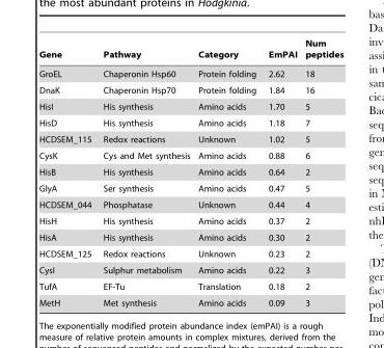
<table><thead><tr><td>Gene</td><td>Pathway</td><td>Category</td><td>EmPAI</td><td>Num peptides</td></tr></thead><tbody><tr><td>GroEL</td><td>Chaperonin Hsp60</td><td>Protein folding</td><td>2.62</td><td>18</td></tr><tr><td>DnaK</td><td>Chaperonin Hsp70</td><td>Protein folding</td><td>1.84</td><td>16</td></tr><tr><td>HisI</td><td>His synthesis</td><td>Amino acids</td><td>1.70</td><td>5</td></tr><tr><td>HisD</td><td>His synthesis</td><td>Amino acids</td><td>1.18</td><td>7</td></tr><tr><td>HCDSEM_115</td><td>Redox reactions</td><td>Unknown</td><td>1.02</td><td>5</td></tr><tr><td>CysK</td><td>Cys and Met synthesis</td><td>Amino acids</td><td>0.88</td><td>6</td></tr><tr><td>HisB</td><td>His synthesis</td><td>Amino acids</td><td>0.64</td><td>2</td></tr><tr><td>GlyA</td><td>Ser synthesis</td><td>Amino acids</td><td>0.47</td><td>5</td></tr><tr><td>HCDSEM_044</td><td>Phosphatase</td><td>Unknown</td><td>0.44</td><td>4</td></tr><tr><td>HisH</td><td>His synthesis</td><td>Amino acids</td><td>0.37</td><td>2</td></tr><tr><td>HisA</td><td>His synthesis</td><td>Amino acids</td><td>0.30</td><td>2</td></tr><tr><td>HCDSEM_125</td><td>Redox reactions</td><td>Unknown</td><td>0.23</td><td>2</td></tr><tr><td>CysI</td><td>Sulphur metabolism</td><td>Amino acids</td><td>0.22</td><td>3</td></tr><tr><td>TufA</td><td>EF-Tu</td><td>Translation</td><td>0.18</td><td>2</td></tr><tr><td>MetH</td><td>Met synthesis</td><td>Amino acids</td><td>0.09</td><td>3</td></tr></tbody></table>